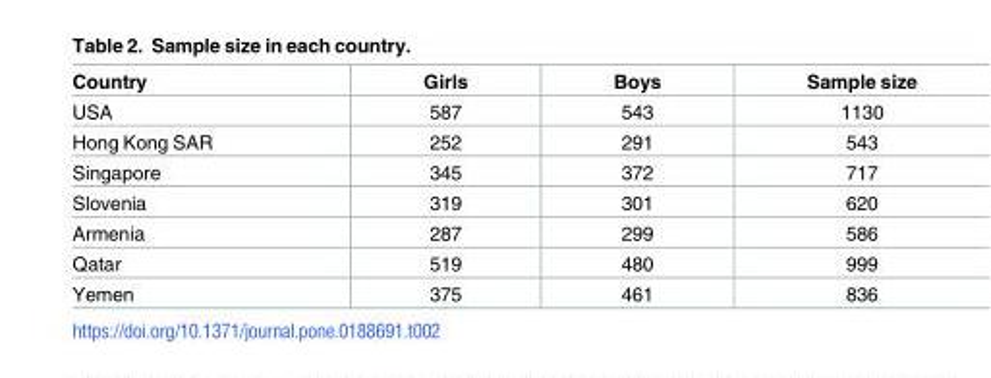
<table><thead><tr><td>Country</td><td>Girls</td><td>Boys</td><td>Sample size</td></tr></thead><tbody><tr><td>USA</td><td>587</td><td>543</td><td>1130</td></tr><tr><td>Hong Kong SAR</td><td>252</td><td>291</td><td>543</td></tr><tr><td>Singapore</td><td>345</td><td>372</td><td>717</td></tr><tr><td>Slovenia</td><td>319</td><td>301</td><td>620</td></tr><tr><td>Armenia</td><td>287</td><td>299</td><td>586</td></tr><tr><td>Qatar</td><td>519</td><td>480</td><td>999</td></tr><tr><td>Yemen</td><td>375</td><td>461</td><td>836</td></tr></tbody></table>